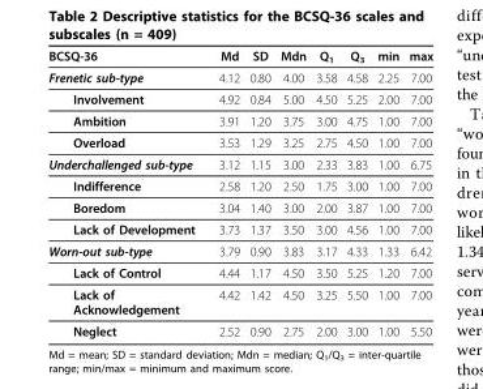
<table><thead><tr><td>BCSQ-36</td><td>Md</td><td>SD</td><td>Mdn</td><td>Q<sub>1</sub></td><td>Q<sub>3</sub></td><td>min</td><td>max</td></tr></thead><tbody><tr><td>Frenetic sub-type</td><td>4.12</td><td>0.80</td><td>4.00</td><td>3.58</td><td>4.58</td><td>2.25</td><td>7.00</td></tr><tr><td>Involvement</td><td>4.92</td><td>0.84</td><td>5.00</td><td>4.50</td><td>5.25</td><td>2.00</td><td>7.00</td></tr><tr><td>Ambition</td><td>3.91</td><td>1.20</td><td>3.75</td><td>3.00</td><td>4.75</td><td>1.00</td><td>7.00</td></tr><tr><td>Overload</td><td>3.53</td><td>1.29</td><td>3.25</td><td>2.75</td><td>4.50</td><td>1.00</td><td>7.00</td></tr><tr><td>Underchallenged sub-type</td><td>3.12</td><td>1.15</td><td>3.00</td><td>2.33</td><td>3.83</td><td>1.00</td><td>6.75</td></tr><tr><td>Indifference</td><td>2.58</td><td>1.20</td><td>2.50</td><td>1.75</td><td>3.00</td><td>1.00</td><td>7.00</td></tr><tr><td>Boredom</td><td>3.04</td><td>1.40</td><td>3.00</td><td>2.00</td><td>3.87</td><td>1.00</td><td>7.00</td></tr><tr><td>Lack of Development</td><td>3.73</td><td>1.37</td><td>3.50</td><td>3.00</td><td>4.56</td><td>1.00</td><td>7.00</td></tr><tr><td>Worn-out sub-type</td><td>3.79</td><td>0.90</td><td>3.83</td><td>3.17</td><td>4.33</td><td>1.33</td><td>6.42</td></tr><tr><td>Lack of Control</td><td>4.44</td><td>1.17</td><td>4.50</td><td>3.50</td><td>5.25</td><td>1.20</td><td>7.00</td></tr><tr><td>Lack of Acknowledgement</td><td>4.42</td><td>1.42</td><td>4.50</td><td>3.25</td><td>5.50</td><td>1.00</td><td>7.00</td></tr><tr><td>Neglect</td><td>2.52</td><td>0.90</td><td>2.75</td><td>2.00</td><td>3.00</td><td>1.00</td><td>5.50</td></tr></tbody></table>